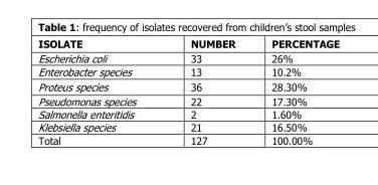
<table><thead><tr><td>ISOLATE</td><td>NUMBER</td><td>PERCENTAGE</td></tr></thead><tbody><tr><td>Escherichia coli</td><td>33</td><td>26%</td></tr><tr><td>Enterobacter species</td><td>13</td><td>10.2%</td></tr><tr><td>Proteus species</td><td>36</td><td>28.30%</td></tr><tr><td>Pseudomonas species</td><td>22</td><td>17.30%</td></tr><tr><td>Salmonella enteritidis</td><td>2</td><td>1.60%</td></tr><tr><td>Klebsiella species</td><td>21</td><td>16.50%</td></tr><tr><td>Total</td><td>127</td><td>100.00%</td></tr></tbody></table>